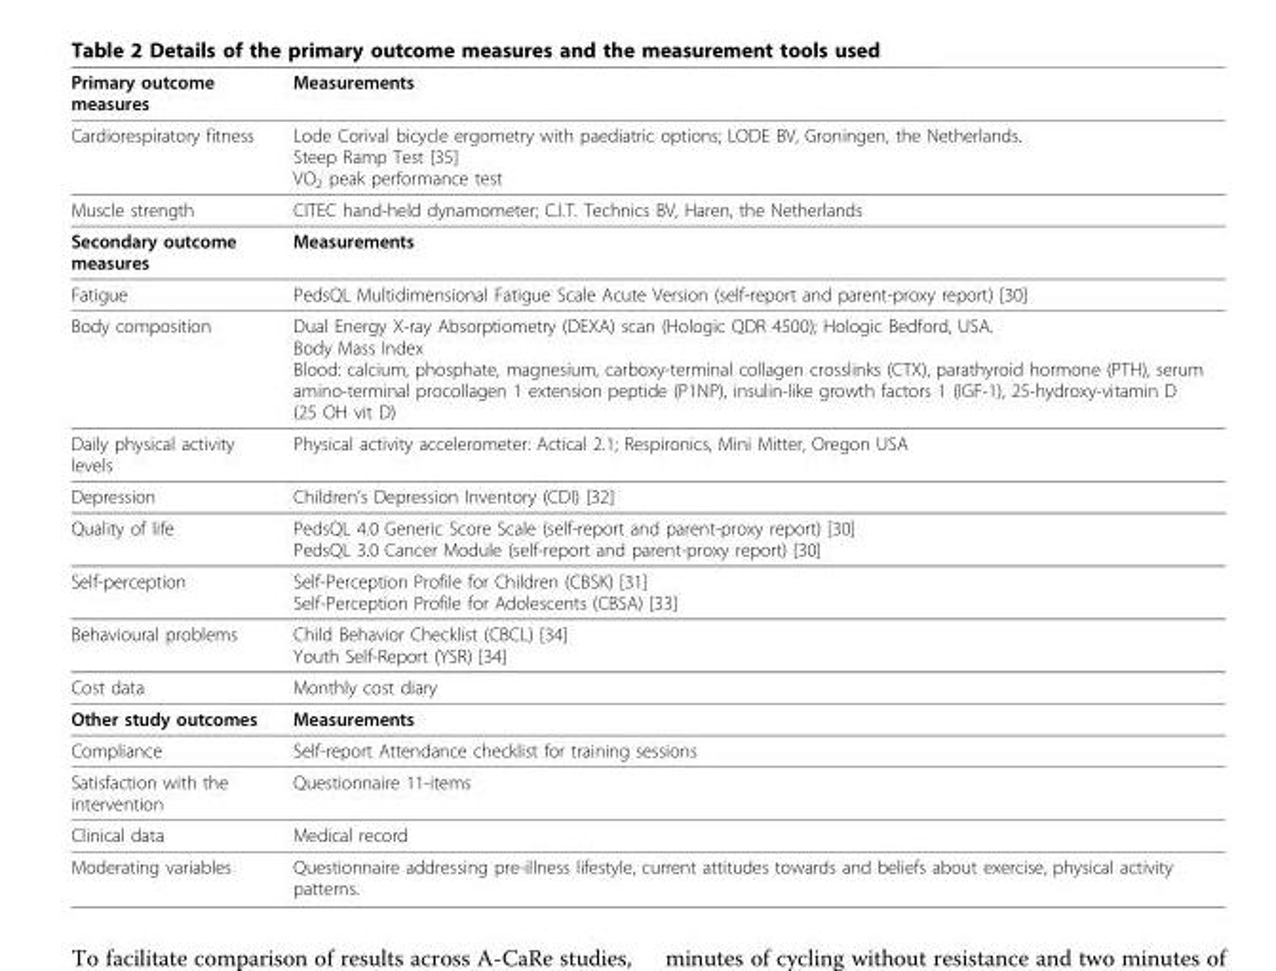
<table><thead><tr><td>Primary outcome measures</td><td>Measurements</td></tr></thead><tbody><tr><td>Cardiorespiratory fitness</td><td>Lode Corival bicycle ergometry with paediatric options; LODE BV, Groningen, the Netherlands. Steep Ramp Test [35] VO<sub>2</sub> peak performance test</td></tr><tr><td>Muscle strength</td><td>CITEC hand-held dynamometer; C.I.T. Technics BV, Haren, the Netherlands</td></tr><tr><td>Secondary outcome measures</td><td>Measurements</td></tr><tr><td>Fatigue</td><td>PedsQL Multidimensional Fatigue Scale Acute Version (self-report and parent-proxy report) [30]</td></tr><tr><td>Body composition</td><td>Dual Energy X-ray Absorptiometry (DEXA) scan (Hologic QDR 4500); Hologic Bedford, USA. Body Mass Index Blood: calcium, phosphate, magnesium, carboxy-terminal collagen crosslinks (CTX), parathyroid hormone (PTH), serum amino-terminal procollagen 1 extension peptide (P1NP), insulin-like growth factors 1 (IGF-1), 25-hydroxy-vitamin D (25 OH vit D)</td></tr><tr><td>Daily physical activity levels</td><td>Physical activity accelerometer: Actical 2.1; Respironics, Mini Mitter, Oregon USA</td></tr><tr><td>Depression</td><td>Children’s Depression Inventory (CDI) [32]</td></tr><tr><td>Quality of life</td><td>PedsQL 4.0 Generic Score Scale (self-report and parent-proxy report) [30] PedsQL 3.0 Cancer Module (self-report and parent-proxy report) [30]</td></tr><tr><td>Self-perception</td><td>Self-Perception Profile for Children (CBSK) [31] Self-Perception Profile for Adolescents (CBSA) [33]</td></tr><tr><td>Behavioural problems</td><td>Child Behavior Checklist (CBCL) [34] Youth Self-Report (YSR) [34]</td></tr><tr><td>Cost data</td><td>Monthly cost diary</td></tr><tr><td>Other study outcomes</td><td>Measurements</td></tr><tr><td>Compliance</td><td>Self-report Attendance checklist for training sessions</td></tr><tr><td>Satisfaction with the intervention</td><td>Questionnaire 11-items</td></tr><tr><td>Clinical data</td><td>Medical record</td></tr><tr><td>Moderating variables</td><td>Questionnaire addressing pre-illness lifestyle, current attitudes towards and beliefs about exercise, physical activity patterns.</td></tr></tbody></table>